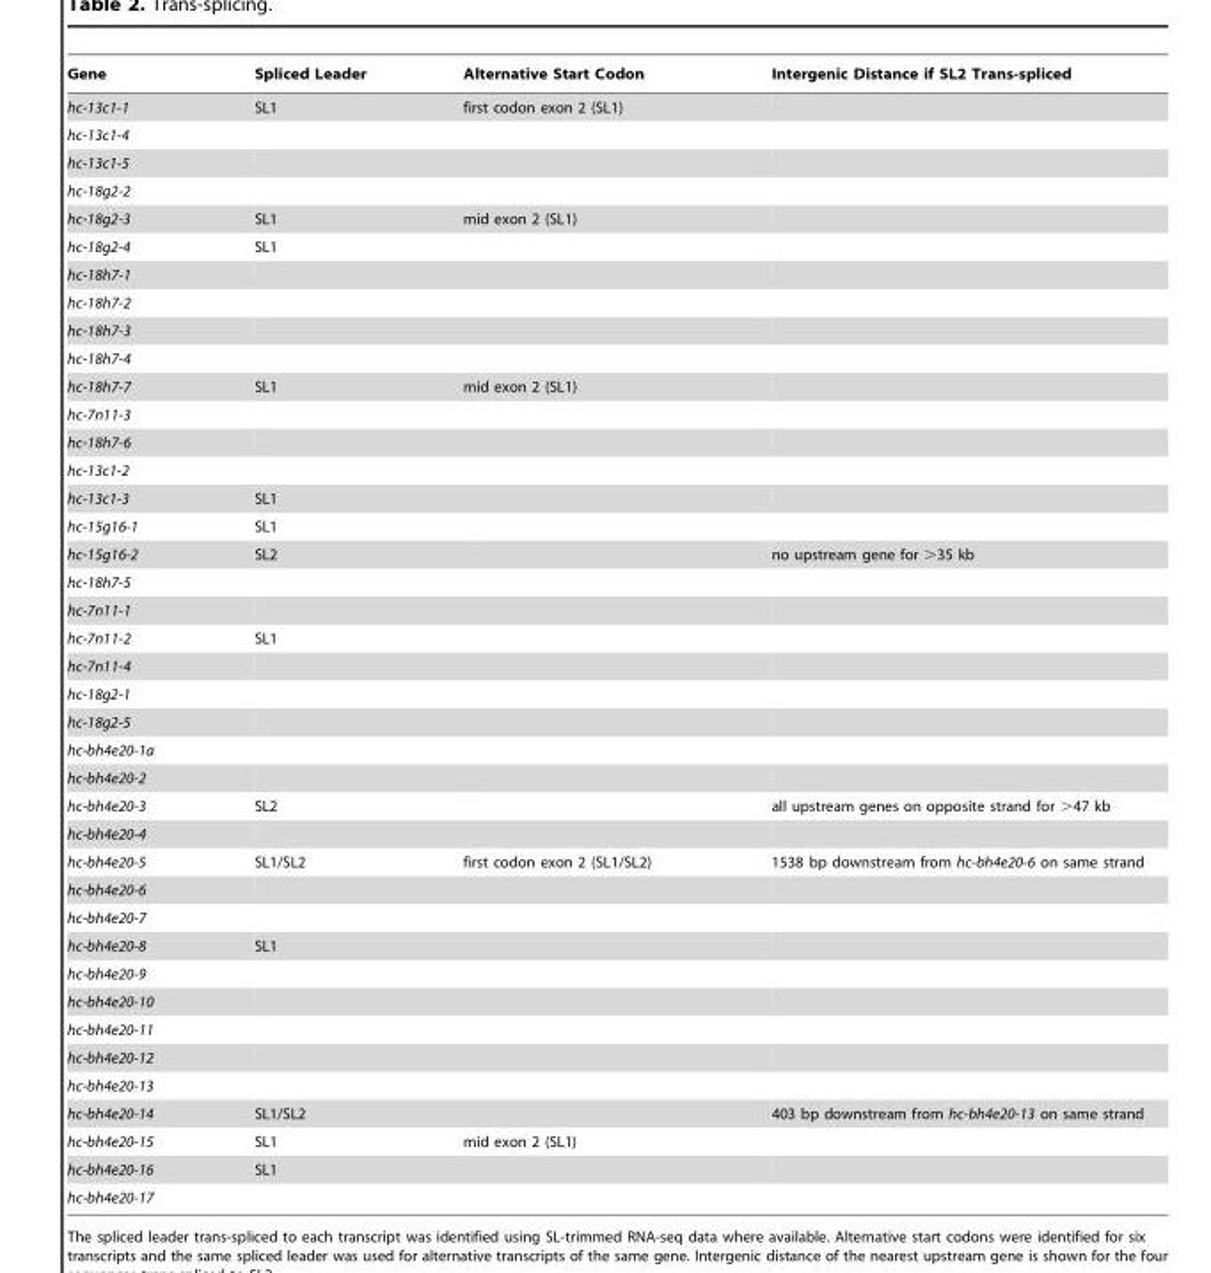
<table><thead><tr><td>Gene</td><td>Spliced Leader</td><td>Alternative Start Codon</td><td>Intergenic Distance if SL2 Trans-spliced</td></tr></thead><tbody><tr><td>hc-13c1-1</td><td>SL1</td><td>first codon exon 2 (SL1)</td><td></td></tr><tr><td colspan="4">hc-13c1-4</td></tr><tr><td colspan="4">hc-13c1-5</td></tr><tr><td colspan="4">hc-18g2-2</td></tr><tr><td>hc-18g2-3</td><td>SL1</td><td>mid exon 2 (SL1)</td><td></td></tr><tr><td>hc-18g2-4</td><td>SL1</td><td></td><td></td></tr><tr><td colspan="4">hc-18h7-1</td></tr><tr><td colspan="4">hc-18h7-2</td></tr><tr><td colspan="4">hc-18h7-3</td></tr><tr><td colspan="4">hc-18h7-4</td></tr><tr><td>hc-18h7-7</td><td>SL1</td><td>mid exon 2 (SL1)</td><td></td></tr><tr><td colspan="4">hc-7n11-3</td></tr><tr><td colspan="4">hc-18h7-6</td></tr><tr><td colspan="4">hc-13c1-2</td></tr><tr><td>hc-13c1-3</td><td>SL1</td><td></td><td></td></tr><tr><td>hc-15g16-1</td><td>SL1</td><td></td><td></td></tr><tr><td>hc-15g16-2</td><td>SL2</td><td></td><td>no upstream gene for &gt;35 kb</td></tr><tr><td colspan="4">hc-18h7-5</td></tr><tr><td colspan="4">hc-7n11-1</td></tr><tr><td>hc-7n11-2</td><td>SL1</td><td></td><td></td></tr><tr><td colspan="4">hc-7n11-4</td></tr><tr><td colspan="4">hc-18g2-1</td></tr><tr><td colspan="4">hc-18g2-5</td></tr><tr><td colspan="4">hc-bh4e20-1a</td></tr><tr><td colspan="4">hc-bh4e20-2</td></tr><tr><td>hc-bh4e20-3</td><td>SL2</td><td></td><td>all upstream genes on opposite strand for &gt;47 kb</td></tr><tr><td colspan="4">hc-bh4e20-4</td></tr><tr><td>hc-bh4e20-5</td><td>SL1/SL2</td><td>first codon exon 2 (SL1/SL2)</td><td>1538 bp downstream from hc-bh4e20-6 on same strand</td></tr><tr><td colspan="4">hc-bh4e20-6</td></tr><tr><td colspan="4">hc-bh4e20-7</td></tr><tr><td>hc-bh4e20-8</td><td>SL1</td><td></td><td></td></tr><tr><td colspan="4">hc-bh4e20-9</td></tr><tr><td colspan="4">hc-bh4e20-10</td></tr><tr><td colspan="4">hc-bh4e20-11</td></tr><tr><td colspan="4">hc-bh4e20-12</td></tr><tr><td colspan="4">hc-bh4e20-13</td></tr><tr><td>hc-bh4e20-14</td><td>SL1/SL2</td><td></td><td>403 bp downstream from hc-bh4e20-13 on same strand</td></tr><tr><td>hc-bh4e20-15</td><td>SL1</td><td>mid exon 2 (SL1)</td><td></td></tr><tr><td>hc-bh4e20-16</td><td>SL1</td><td></td><td></td></tr><tr><td>hc-bh4e20-17</td><td></td><td></td><td></td></tr></tbody></table>